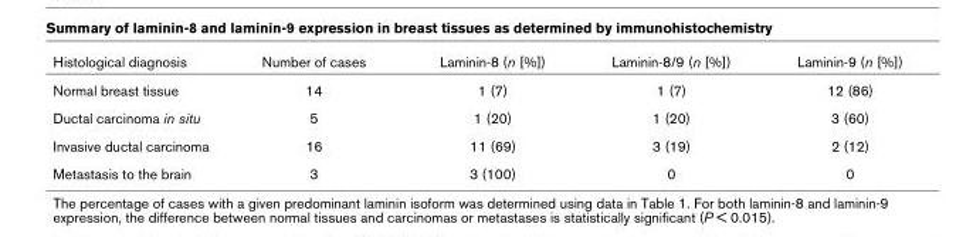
<table><thead><tr><td>Histological diagnosis</td><td>Number of cases</td><td>Laminin-8 (n [%])</td><td>Laminin-8/9 (n [%])</td><td>Laminin-9 (n [%])</td></tr></thead><tbody><tr><td>Normal breast tissue</td><td>14</td><td>1 (7)</td><td>1 (7)</td><td>12 (86)</td></tr><tr><td>Ductal carcinoma in situ</td><td>5</td><td>1 (20)</td><td>1 (20)</td><td>3 (60)</td></tr><tr><td>Invasive ductal carcinoma</td><td>16</td><td>11 (69)</td><td>3 (19)</td><td>2 (12)</td></tr><tr><td>Metastasis to the brain</td><td>3</td><td>3 (100)</td><td>0</td><td>0</td></tr></tbody></table>